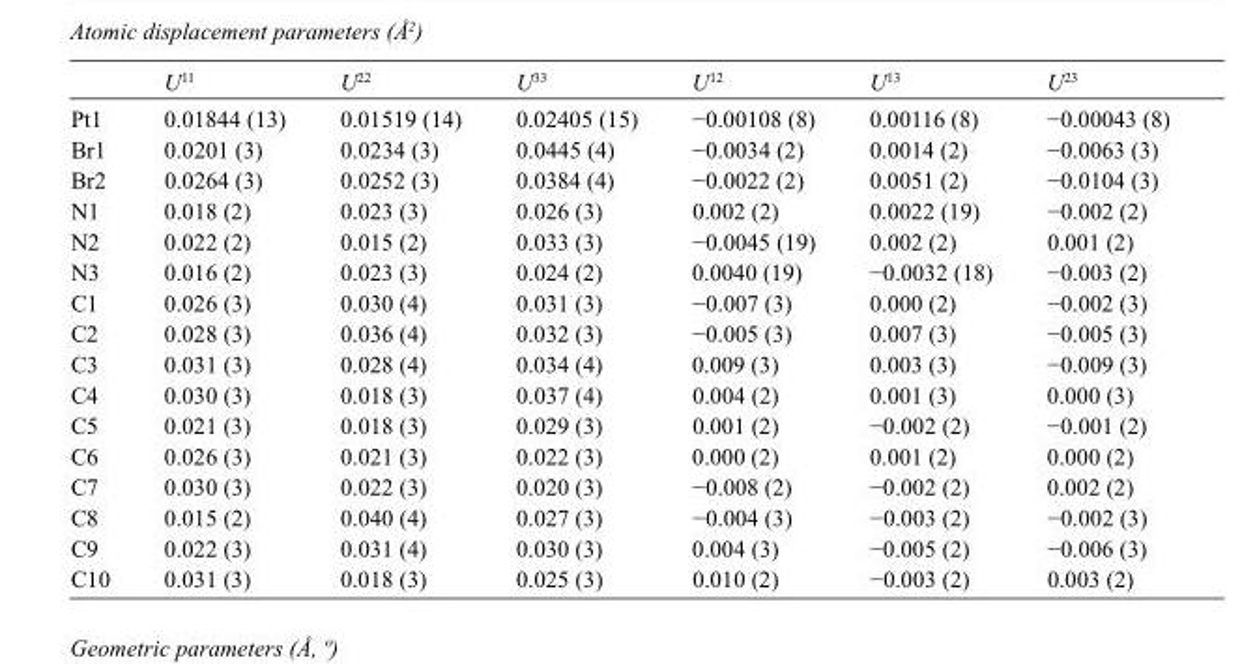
<table><thead><tr><td></td><td>U<sup>11</sup></td><td>U<sup>22</sup></td><td>U<sup>33</sup></td><td>U<sup>12</sup></td><td>U<sup>13</sup></td><td>U<sup>23</sup></td></tr></thead><tbody><tr><td>Pt1</td><td>0.01844 (13)</td><td>0.01519 (14)</td><td>0.02405 (15)</td><td>−0.00108 (8)</td><td>0.00116 (8)</td><td>−0.00043 (8)</td></tr><tr><td>Br1</td><td>0.0201 (3)</td><td>0.0234 (3)</td><td>0.0445 (4)</td><td>−0.0034 (2)</td><td>0.0014 (2)</td><td>−0.0063 (3)</td></tr><tr><td>Br2</td><td>0.0264 (3)</td><td>0.0252 (3)</td><td>0.0384 (4)</td><td>−0.0022 (2)</td><td>0.0051 (2)</td><td>−0.0104 (3)</td></tr><tr><td>N1</td><td>0.018 (2)</td><td>0.023 (3)</td><td>0.026 (3)</td><td>0.002 (2)</td><td>0.0022 (19)</td><td>−0.002 (2)</td></tr><tr><td>N2</td><td>0.022 (2)</td><td>0.015 (2)</td><td>0.033 (3)</td><td>−0.0045 (19)</td><td>0.002 (2)</td><td>0.001 (2)</td></tr><tr><td>N3</td><td>0.016 (2)</td><td>0.023 (3)</td><td>0.024 (2)</td><td>0.0040 (19)</td><td>−0.0032 (18)</td><td>−0.003 (2)</td></tr><tr><td>C1</td><td>0.026 (3)</td><td>0.030 (4)</td><td>0.031 (3)</td><td>−0.007 (3)</td><td>0.000 (2)</td><td>−0.002 (3)</td></tr><tr><td>C2</td><td>0.028 (3)</td><td>0.036 (4)</td><td>0.032 (3)</td><td>−0.005 (3)</td><td>0.007 (3)</td><td>−0.005 (3)</td></tr><tr><td>C3</td><td>0.031 (3)</td><td>0.028 (4)</td><td>0.034 (4)</td><td>0.009 (3)</td><td>0.003 (3)</td><td>−0.009 (3)</td></tr><tr><td>C4</td><td>0.030 (3)</td><td>0.018 (3)</td><td>0.037 (4)</td><td>0.004 (2)</td><td>0.001 (3)</td><td>0.000 (3)</td></tr><tr><td>C5</td><td>0.021 (3)</td><td>0.018 (3)</td><td>0.029 (3)</td><td>0.001 (2)</td><td>−0.002 (2)</td><td>−0.001 (2)</td></tr><tr><td>C6</td><td>0.026 (3)</td><td>0.021 (3)</td><td>0.022 (3)</td><td>0.000 (2)</td><td>0.001 (2)</td><td>0.000 (2)</td></tr><tr><td>C7</td><td>0.030 (3)</td><td>0.022 (3)</td><td>0.020 (3)</td><td>−0.008 (2)</td><td>−0.002 (2)</td><td>0.002 (2)</td></tr><tr><td>C8</td><td>0.015 (2)</td><td>0.040 (4)</td><td>0.027 (3)</td><td>−0.004 (3)</td><td>−0.003 (2)</td><td>−0.002 (3)</td></tr><tr><td>C9</td><td>0.022 (3)</td><td>0.031 (4)</td><td>0.030 (3)</td><td>0.004 (3)</td><td>−0.005 (2)</td><td>−0.006 (3)</td></tr><tr><td>C10</td><td>0.031 (3)</td><td>0.018 (3)</td><td>0.025 (3)</td><td>0.010 (2)</td><td>−0.003 (2)</td><td>0.003 (2)</td></tr></tbody></table>